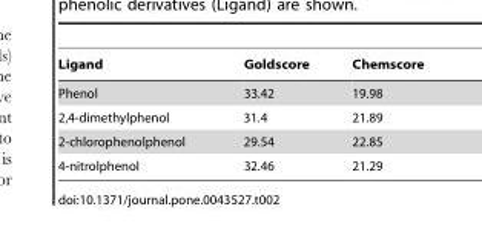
<table><thead><tr><td>Ligand</td><td>Goldscore</td><td>Chemscore</td></tr></thead><tbody><tr><td>Phenol</td><td>33.42</td><td>19.98</td></tr><tr><td>2,4-dimethylphenol</td><td>31.4</td><td>21.89</td></tr><tr><td>2-chlorophenolphenol</td><td>29.54</td><td>22.85</td></tr><tr><td>4-nitrolphenol</td><td>32.46</td><td>21.29</td></tr></tbody></table>